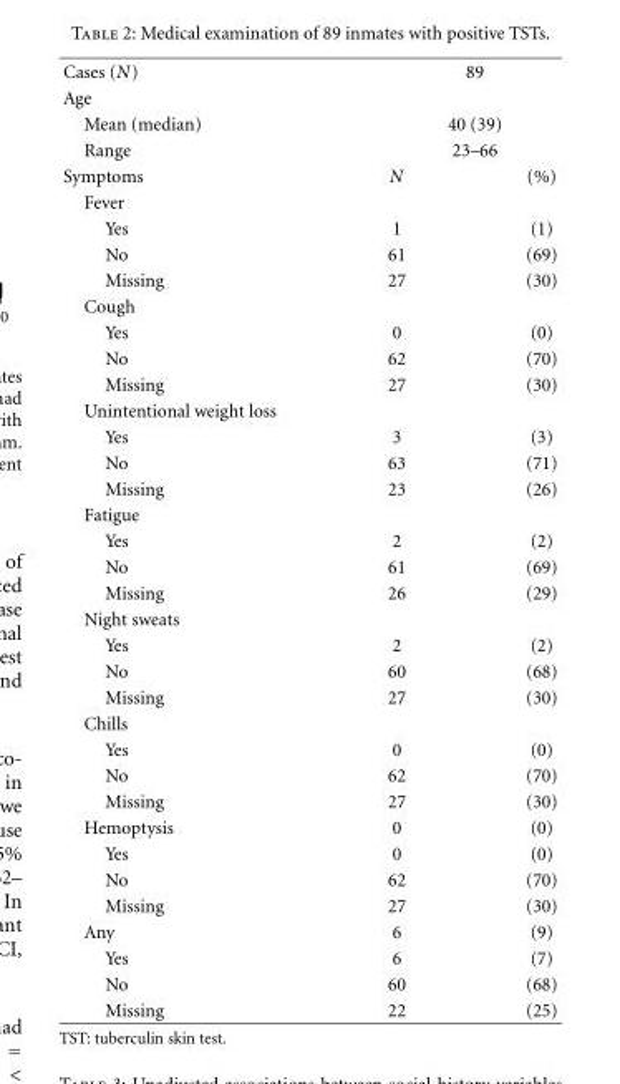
<table><tbody><tr><td>Cases (N)</td><td colspan="2">89</td></tr><tr><td colspan="3">Age</td></tr><tr><td>Mean (median)</td><td colspan="2">40 (39)</td></tr><tr><td>Range</td><td colspan="2">23–66</td></tr><tr><td>Symptoms</td><td>N</td><td>(%)</td></tr><tr><td colspan="3">Fever</td></tr><tr><td>Yes</td><td>1</td><td>(1)</td></tr><tr><td>No</td><td>61</td><td>(69)</td></tr><tr><td>Missing</td><td>27</td><td>(30)</td></tr><tr><td colspan="3">Cough</td></tr><tr><td>Yes</td><td>0</td><td>(0)</td></tr><tr><td>No</td><td>62</td><td>(70)</td></tr><tr><td>Missing</td><td>27</td><td>(30)</td></tr><tr><td colspan="3">Unintentional weight loss</td></tr><tr><td>Yes</td><td>3</td><td>(3)</td></tr><tr><td>No</td><td>63</td><td>(71)</td></tr><tr><td>Missing</td><td>23</td><td>(26)</td></tr><tr><td colspan="3">Fatigue</td></tr><tr><td>Yes</td><td>2</td><td>(2)</td></tr><tr><td>No</td><td>61</td><td>(69)</td></tr><tr><td>Missing</td><td>26</td><td>(29)</td></tr><tr><td colspan="3">Night sweats</td></tr><tr><td>Yes</td><td>2</td><td>(2)</td></tr><tr><td>No</td><td>60</td><td>(68)</td></tr><tr><td>Missing</td><td>27</td><td>(30)</td></tr><tr><td colspan="3">Chills</td></tr><tr><td>Yes</td><td>0</td><td>(0)</td></tr><tr><td>No</td><td>62</td><td>(70)</td></tr><tr><td>Missing</td><td>27</td><td>(30)</td></tr><tr><td>Hemoptysis</td><td>0</td><td>(0)</td></tr><tr><td>Yes</td><td>0</td><td>(0)</td></tr><tr><td>No</td><td>62</td><td>(70)</td></tr><tr><td>Missing</td><td>27</td><td>(30)</td></tr><tr><td>Any</td><td>6</td><td>(9)</td></tr><tr><td>Yes</td><td>6</td><td>(7)</td></tr><tr><td>No</td><td>60</td><td>(68)</td></tr><tr><td>Missing</td><td>22</td><td>(25)</td></tr></tbody></table>